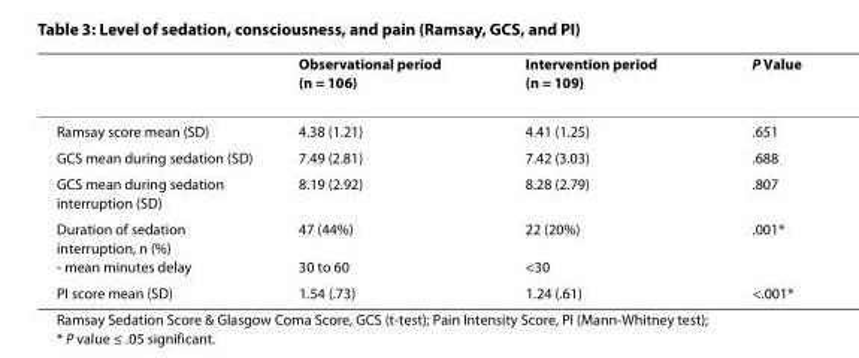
<table><thead><tr><td></td><td>Observational period (n = 106)</td><td>Intervention period (n = 109)</td><td>P Value</td></tr></thead><tbody><tr><td>Ramsay score mean (SD)</td><td>4.38 (1.21)</td><td>4.41 (1.25)</td><td>.651</td></tr><tr><td>GCS mean during sedation (SD)</td><td>7.49 (2.81)</td><td>7.42 (3.03)</td><td>.688</td></tr><tr><td>GCS mean during sedation interruption (SD)</td><td>8.19 (2.92)</td><td>8.28 (2.79)</td><td>.807</td></tr><tr><td>Duration of sedation interruption, n (%) - mean minutes delay</td><td>47 (44%) 30 to 60</td><td>22 (20%) &lt;30</td><td>.001*</td></tr><tr><td>PI score mean (SD)</td><td>1.54 (.73)</td><td>1.24 (.61)</td><td>&lt;.001*</td></tr></tbody></table>